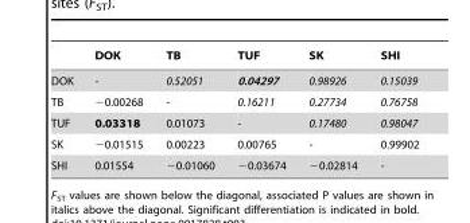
<table><thead><tr><td></td><td>DOK</td><td>TB</td><td>TUF</td><td>SK</td><td>SHI</td></tr></thead><tbody><tr><td>DOK</td><td>-</td><td>0.52051</td><td>0.04297</td><td>0.98926</td><td>0.15039</td></tr><tr><td>TB</td><td>−0.00268</td><td>-</td><td>0.16211</td><td>0.27734</td><td>0.76758</td></tr><tr><td>TUF</td><td>0.03318</td><td>0.01073</td><td>-</td><td>0.17480</td><td>0.98047</td></tr><tr><td>SK</td><td>−0.01515</td><td>0.00223</td><td>0.00765</td><td>-</td><td>0.99902</td></tr><tr><td>SHI</td><td>0.01554</td><td>−0.01060</td><td>−0.03674</td><td>−0.02814</td><td>-</td></tr></tbody></table>